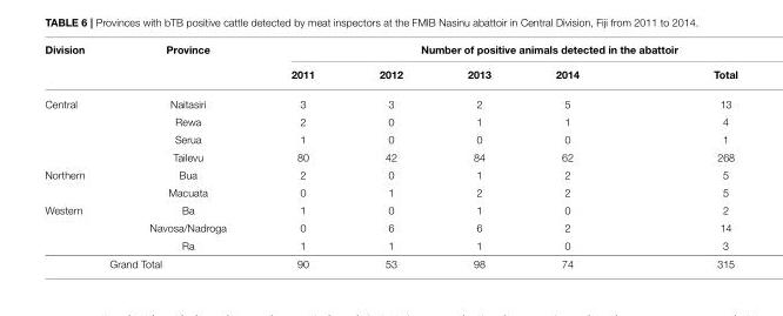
<table><thead><tr><td rowspan="2">Division</td><td rowspan="2">Province</td><td colspan="5">Number of positive animals detected in the abattoir</td></tr><tr><td>2011</td><td>2012</td><td>2013</td><td>2014</td><td>Total</td></tr></thead><tbody><tr><td rowspan="4">Central</td><td>Naitasiri</td><td>3</td><td>3</td><td>2</td><td>5</td><td>13</td></tr><tr><td>Rewa</td><td>2</td><td>0</td><td>1</td><td>1</td><td>4</td></tr><tr><td>Serua</td><td>1</td><td>0</td><td>0</td><td>0</td><td>1</td></tr><tr><td>Tailevu</td><td>80</td><td>42</td><td>84</td><td>62</td><td>268</td></tr><tr><td rowspan="2">Northern</td><td>Bua</td><td>2</td><td>0</td><td>1</td><td>2</td><td>5</td></tr><tr><td>Macuata</td><td>0</td><td>1</td><td>2</td><td>2</td><td>5</td></tr><tr><td rowspan="3">Western</td><td>Ba</td><td>1</td><td>0</td><td>1</td><td>0</td><td>2</td></tr><tr><td>Navosa/Nadroga</td><td>0</td><td>6</td><td>6</td><td>2</td><td>14</td></tr><tr><td>Ra</td><td>1</td><td>1</td><td>1</td><td>0</td><td>3</td></tr><tr><td colspan="2">Grand Total</td><td>90</td><td>53</td><td>98</td><td>74</td><td>315</td></tr></tbody></table>